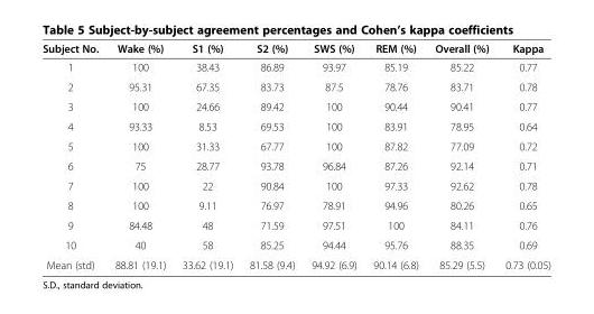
<table><thead><tr><td>Subject No.</td><td>Wake (%)</td><td>S1 (%)</td><td>S2 (%)</td><td>SWS (%)</td><td>REM (%)</td><td>Overall (%)</td><td>Kappa</td></tr></thead><tbody><tr><td>1</td><td>100</td><td>38.43</td><td>86.89</td><td>93.97</td><td>85.19</td><td>85.22</td><td>0.77</td></tr><tr><td>2</td><td>95.31</td><td>67.35</td><td>83.73</td><td>87.5</td><td>78.76</td><td>83.71</td><td>0.78</td></tr><tr><td>3</td><td>100</td><td>24.66</td><td>89.42</td><td>100</td><td>90.44</td><td>90.41</td><td>0.77</td></tr><tr><td>4</td><td>93.33</td><td>8.53</td><td>69.53</td><td>100</td><td>83.91</td><td>78.95</td><td>0.64</td></tr><tr><td>5</td><td>100</td><td>31.33</td><td>67.77</td><td>100</td><td>87.82</td><td>77.09</td><td>0.72</td></tr><tr><td>6</td><td>75</td><td>28.77</td><td>93.78</td><td>96.84</td><td>87.26</td><td>92.14</td><td>0.71</td></tr><tr><td>7</td><td>100</td><td>22</td><td>90.84</td><td>100</td><td>97.33</td><td>92.62</td><td>0.78</td></tr><tr><td>8</td><td>100</td><td>9.11</td><td>76.97</td><td>78.91</td><td>94.96</td><td>80.26</td><td>0.65</td></tr><tr><td>9</td><td>84.48</td><td>48</td><td>71.59</td><td>97.51</td><td>100</td><td>84.11</td><td>0.76</td></tr><tr><td>10</td><td>40</td><td>58</td><td>85.25</td><td>94.44</td><td>95.76</td><td>88.35</td><td>0.69</td></tr><tr><td>Mean (std)</td><td>88.81 (19.1)</td><td>33.62 (19.1)</td><td>81.58 (9.4)</td><td>94.92 (6.9)</td><td>90.14 (6.8)</td><td>85.29 (5.5)</td><td>0.73 (0.05)</td></tr></tbody></table>